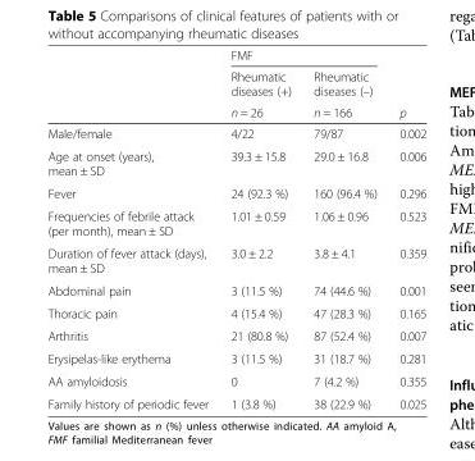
<table><thead><tr><td rowspan="3"></td><td colspan="2">FMF</td><td rowspan="3">p</td></tr><tr><td rowspan="2">Rheumatic diseases (+) n = 26</td><td rowspan="2">Rheumatic diseases (–) n = 166</td></tr><tr></tr></thead><tbody><tr><td>Male/female</td><td>4/22</td><td>79/87</td><td>0.002</td></tr><tr><td>Age at onset (years), mean ± SD</td><td>39.3 ± 15.8</td><td>29.0 ± 16.8</td><td>0.006</td></tr><tr><td>Fever</td><td>24 (92.3 %)</td><td>160 (96.4 %)</td><td>0.296</td></tr><tr><td>Frequencies of febrile attack (per month), mean ± SD</td><td>1.01 ± 0.59</td><td>1.06 ± 0.96</td><td>0.523</td></tr><tr><td>Duration of fever attack (days), mean ± SD</td><td>3.0 ± 2.2</td><td>3.8 ± 4.1</td><td>0.359</td></tr><tr><td>Abdominal pain</td><td>3 (11.5 %)</td><td>74 (44.6 %)</td><td>0.001</td></tr><tr><td>Thoracic pain</td><td>4 (15.4 %)</td><td>47 (28.3 %)</td><td>0.165</td></tr><tr><td>Arthritis</td><td>21 (80.8 %)</td><td>87 (52.4 %)</td><td>0.007</td></tr><tr><td>Erysipelas-like erythema</td><td>3 (11.5 %)</td><td>31 (18.7 %)</td><td>0.281</td></tr><tr><td>AA amyloidosis</td><td>0</td><td>7 (4.2 %)</td><td>0.355</td></tr><tr><td>Family history of periodic fever</td><td>1 (3.8 %)</td><td>38 (22.9 %)</td><td>0.025</td></tr></tbody></table>